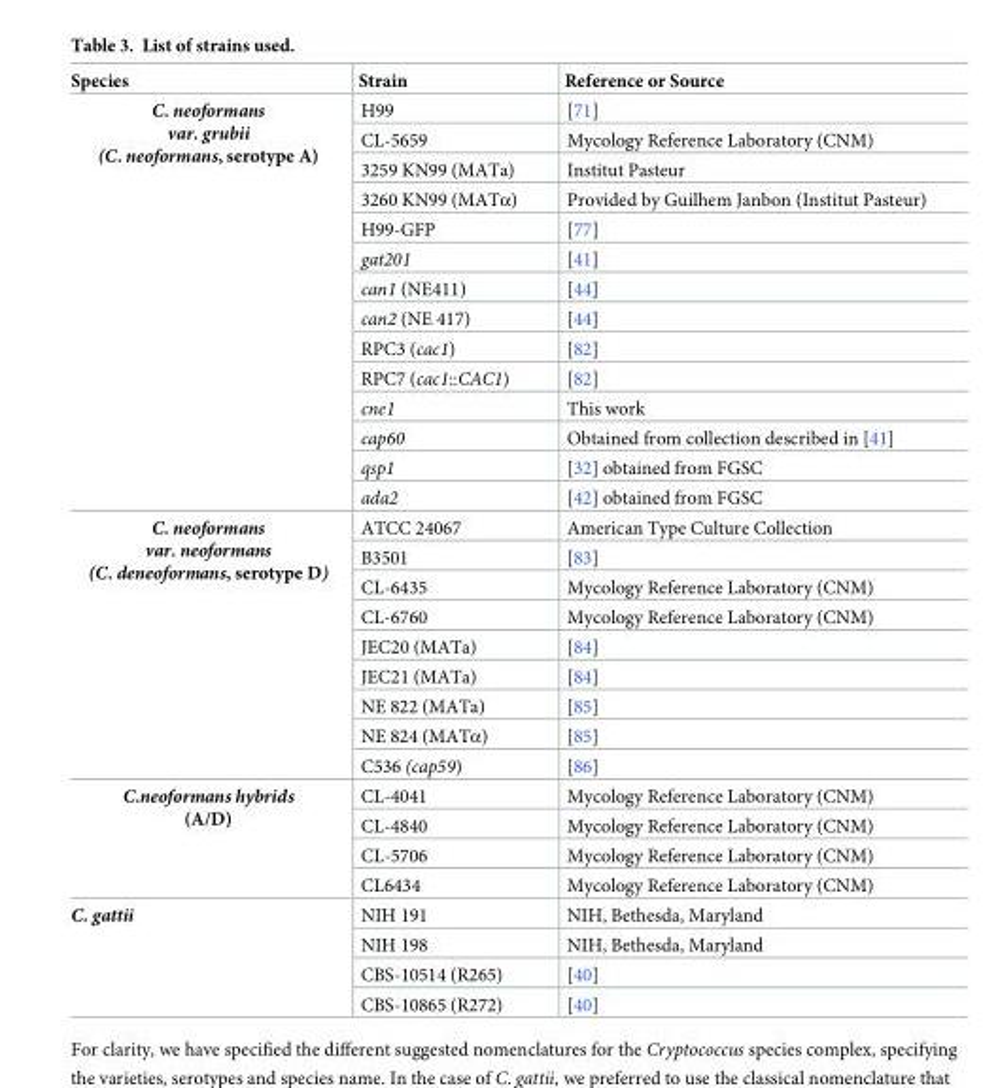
<table><thead><tr><td>Species</td><td>Strain</td><td>Reference or Source</td></tr></thead><tbody><tr><td rowspan="14">C. neoformans var. grubii (C. neoformans, serotype A)</td><td>H99</td><td>[71]</td></tr><tr><td>CL-5659</td><td>Mycology Reference Laboratory (CNM)</td></tr><tr><td>3259 KN99 (MATa)</td><td>Institut Pasteur</td></tr><tr><td>3260 KN99 (MATα)</td><td>Provided by Guilhem Janbon (Institut Pasteur)</td></tr><tr><td>H99-GFP</td><td>[77]</td></tr><tr><td>gat201</td><td>[41]</td></tr><tr><td>can1 (NE411)</td><td>[44]</td></tr><tr><td>can2 (NE 417)</td><td>[44]</td></tr><tr><td>RPC3 (cac1)</td><td>[82]</td></tr><tr><td>RPC7 (cac1::CAC1)</td><td>[82]</td></tr><tr><td>cne1</td><td>This work</td></tr><tr><td>cap60</td><td>Obtained from collection described in [41]</td></tr><tr><td>qsp1</td><td>[32] obtained from FGSC</td></tr><tr><td>ada2</td><td>[42] obtained from FGSC</td></tr><tr><td rowspan="9">C. neoformans var. neoformans (C. deneoformans, serotype D)</td><td>ATCC 24067</td><td>American Type Culture Collection</td></tr><tr><td>B3501</td><td>[83]</td></tr><tr><td>CL-6435</td><td>Mycology Reference Laboratory (CNM)</td></tr><tr><td>CL-6760</td><td>Mycology Reference Laboratory (CNM)</td></tr><tr><td>JEC20 (MATa)</td><td>[84]</td></tr><tr><td>JEC21 (MATa)</td><td>[84]</td></tr><tr><td>NE 822 (MATa)</td><td>[85]</td></tr><tr><td>NE 824 (MATα)</td><td>[85]</td></tr><tr><td>C536 (cap59)</td><td>[86]</td></tr><tr><td rowspan="4">C.neoformans hybrids (A/D)</td><td>CL-4041</td><td>Mycology Reference Laboratory (CNM)</td></tr><tr><td>CL-4840</td><td>Mycology Reference Laboratory (CNM)</td></tr><tr><td>CL-5706</td><td>Mycology Reference Laboratory (CNM)</td></tr><tr><td>CL6434</td><td>Mycology Reference Laboratory (CNM)</td></tr><tr><td rowspan="4">C. gattii</td><td>NIH 191</td><td>NIH, Bethesda, Maryland</td></tr><tr><td>NIH 198</td><td>NIH, Bethesda, Maryland</td></tr><tr><td>CBS-10514 (R265)</td><td>[40]</td></tr><tr><td>CBS-10865 (R272)</td><td>[40]</td></tr></tbody></table>